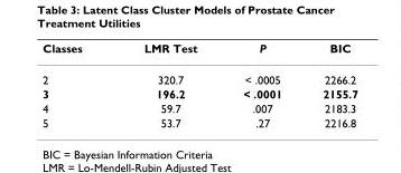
<table><thead><tr><td>Classes</td><td>LMR Test</td><td>P</td><td>BIC</td></tr></thead><tbody><tr><td>2</td><td>320.7</td><td>&lt; .0005</td><td>2266.2</td></tr><tr><td>3</td><td>196.2</td><td>&lt; .0001</td><td>2155.7</td></tr><tr><td>4</td><td>59.7</td><td>.007</td><td>2183.3</td></tr><tr><td>5</td><td>53.7</td><td>.27</td><td>2216.8</td></tr></tbody></table>